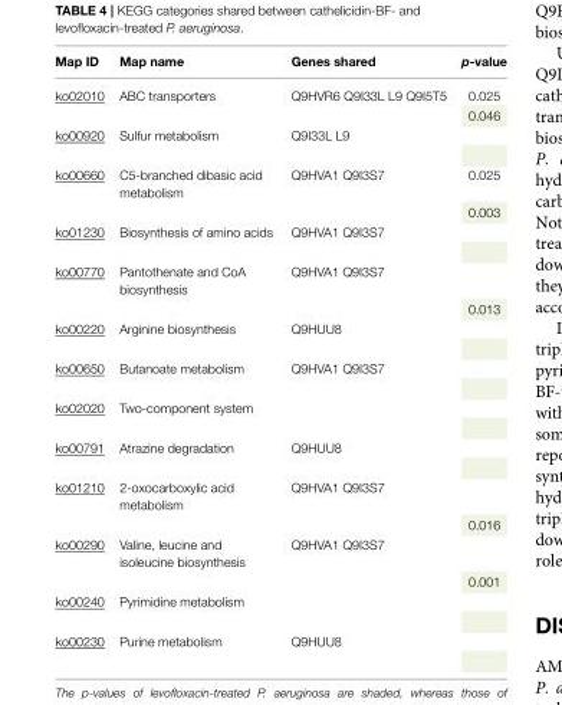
<table><thead><tr><td>Map ID</td><td>Map name</td><td>Genes shared</td><td>p-value</td></tr></thead><tbody><tr><td rowspan="2">ko02010</td><td>ABC transporters</td><td>Q9HVR6 Q9I33L L9 Q9I5T5</td><td>0.025</td></tr><tr><td></td><td></td><td>0.046</td></tr><tr><td>ko00920</td><td>Sulfur metabolism</td><td>Q9I33L L9</td><td></td></tr><tr><td rowspan="2">ko00660</td><td>C5-branched dibasic acid metabolism</td><td>Q9HVA1 Q9I3S7</td><td>0.025</td></tr><tr><td></td><td></td><td>0.003</td></tr><tr><td>ko01230</td><td>Biosynthesis of amino acids</td><td>Q9HVA1 Q9I3S7</td><td></td></tr><tr><td rowspan="2">ko00770</td><td>Pantothenate and CoA biosynthesis</td><td>Q9HVA1 Q9I3S7</td><td></td></tr><tr><td></td><td></td><td>0.013</td></tr><tr><td>ko00220</td><td>Arginine biosynthesis</td><td>Q9HUU8</td><td></td></tr><tr><td>ko00650</td><td>Butanoate metabolism</td><td>Q9HVA1 Q9I3S7</td><td></td></tr><tr><td>ko02020</td><td>Two-component system</td><td></td><td></td></tr><tr><td>ko00791</td><td>Atrazine degradation</td><td>Q9HUU8</td><td></td></tr><tr><td rowspan="2">ko01210</td><td>2-oxocarboxylic acid metabolism</td><td>Q9HVA1 Q9I3S7</td><td></td></tr><tr><td></td><td></td><td>0.016</td></tr><tr><td rowspan="2">ko00290</td><td>Valine, leucine and isoleucine biosynthesis</td><td>Q9HVA1 Q9I3S7</td><td></td></tr><tr><td></td><td></td><td>0.001</td></tr><tr><td>ko00240</td><td>Pyrimidine metabolism</td><td></td><td></td></tr><tr><td>ko00230</td><td>Purine metabolism</td><td>Q9HUU8</td><td></td></tr></tbody></table>